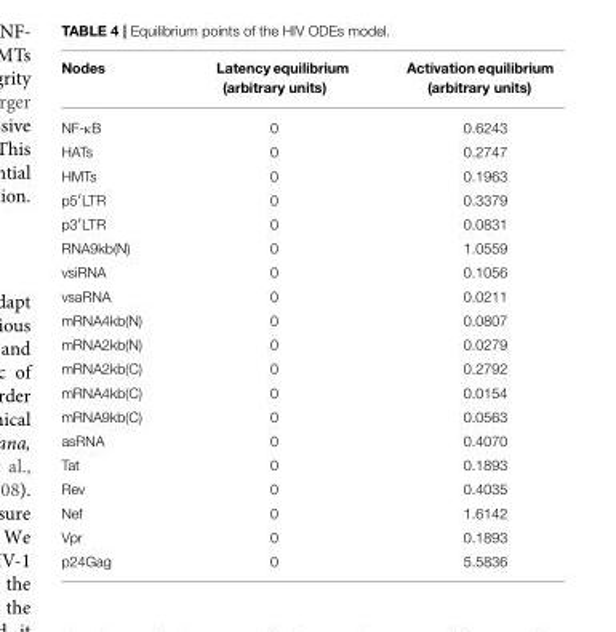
<table><thead><tr><td>Nodes</td><td>Latency equilibrium (arbitrary units)</td><td>Activation equilibrium (arbitrary units)</td></tr></thead><tbody><tr><td>NF-κB</td><td>0</td><td>0.6243</td></tr><tr><td>HATs</td><td>0</td><td>0.2747</td></tr><tr><td>HMTs</td><td>0</td><td>0.1963</td></tr><tr><td>p5′LTR</td><td>0</td><td>0.3379</td></tr><tr><td>p3′LTR</td><td>0</td><td>0.0831</td></tr><tr><td>RNA9kb(N)</td><td>0</td><td>1.0559</td></tr><tr><td>vsiRNA</td><td>0</td><td>0.1056</td></tr><tr><td>vsaRNA</td><td>0</td><td>0.0211</td></tr><tr><td>mRNA4kb(N)</td><td>0</td><td>0.0807</td></tr><tr><td>mRNA2kb(N)</td><td>0</td><td>0.0279</td></tr><tr><td>mRNA2kb(C)</td><td>0</td><td>0.2792</td></tr><tr><td>mRNA4kb(C)</td><td>0</td><td>0.0154</td></tr><tr><td>mRNA9kb(C)</td><td>0</td><td>0.0563</td></tr><tr><td>asRNA</td><td>0</td><td>0.4070</td></tr><tr><td>Tat</td><td>0</td><td>0.1893</td></tr><tr><td>Rev</td><td>0</td><td>0.4035</td></tr><tr><td>Nef</td><td>0</td><td>1.6142</td></tr><tr><td>Vpr</td><td>0</td><td>0.1893</td></tr><tr><td>p24Gag</td><td>0</td><td>5.5836</td></tr></tbody></table>